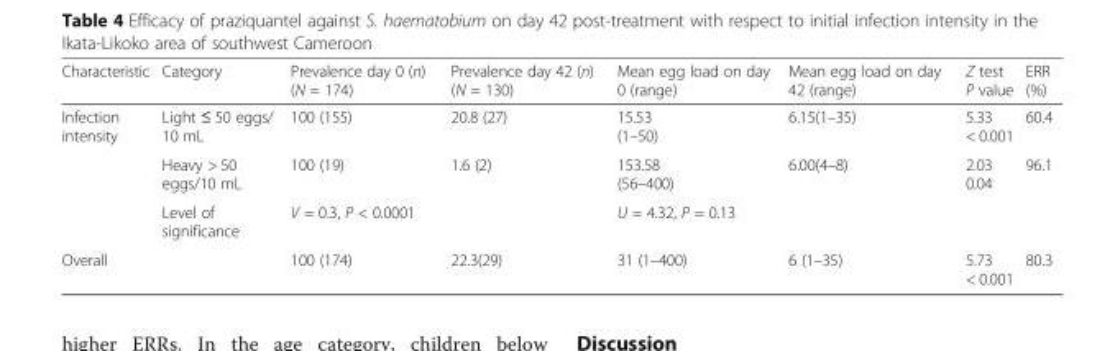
<table><thead><tr><td>Characteristic</td><td>Category</td><td>Prevalence day 0 (n) (N = 174)</td><td>Prevalence day 42 (n) (N = 130)</td><td>Mean egg load on day 0 (range)</td><td>Mean egg load on day 42 (range)</td><td>Z test P value</td><td>ERR (%)</td></tr></thead><tbody><tr><td rowspan="3">Infection intensity</td><td>Light ≤ 50 eggs/ 10 mL</td><td>100 (155)</td><td>20.8 (27)</td><td>15.53 (1–50)</td><td>6.15(1–35)</td><td>5.33 &lt; 0.001</td><td>60.4</td></tr><tr><td>Heavy &gt; 50 eggs/10 mL</td><td>100 (19)</td><td>1.6 (2)</td><td>153.58 (56–400)</td><td>6.00(4–8)</td><td>2.03 0.04</td><td>96.1</td></tr><tr><td>Level of significance</td><td colspan="2">V = 0.3, P &lt; 0.0001</td><td colspan="2">U = 4.32, P = 0.13</td><td></td><td></td></tr><tr><td>Overall</td><td></td><td>100 (174)</td><td>22.3(29)</td><td>31 (1–400)</td><td>6 (1–35)</td><td>5.73 &lt; 0.001</td><td>80.3</td></tr></tbody></table>